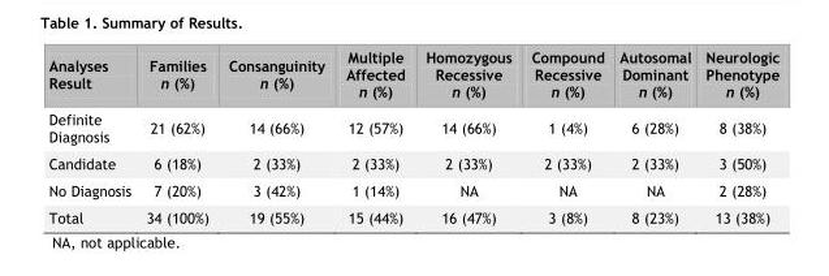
<table><thead><tr><td>Analyses Result</td><td>Families n (%)</td><td>Consanguinity n (%)</td><td>Multiple Affected n (%)</td><td>Homozygous Recessive n (%)</td><td>Compound Recessive n (%)</td><td>Autosomal Dominant n (%)</td><td>Neurologic Phenotype n (%)</td></tr></thead><tbody><tr><td>Definite Diagnosis</td><td>21 (62%)</td><td>14 (66%)</td><td>12 (57%)</td><td>14 (66%)</td><td>1 (4%)</td><td>6 (28%)</td><td>8 (38%)</td></tr><tr><td>Candidate</td><td>6 (18%)</td><td>2 (33%)</td><td>2 (33%)</td><td>2 (33%)</td><td>2 (33%)</td><td>2 (33%)</td><td>3 (50%)</td></tr><tr><td>No Diagnosis</td><td>7 (20%)</td><td>3 (42%)</td><td>1 (14%)</td><td>NA</td><td>NA</td><td>NA</td><td>2 (28%)</td></tr><tr><td>Total</td><td>34 (100%)</td><td>19 (55%)</td><td>15 (44%)</td><td>16 (47%)</td><td>3 (8%)</td><td>8 (23%)</td><td>13 (38%)</td></tr></tbody></table>